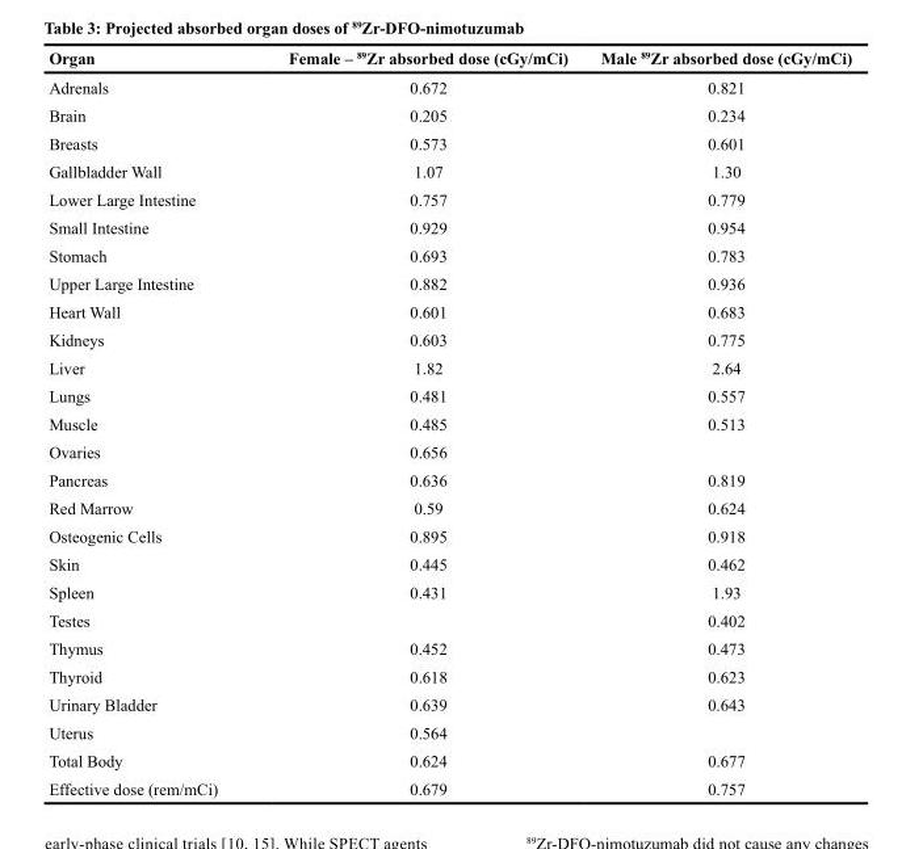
<table><thead><tr><td>Organ</td><td>Female – <sup>89</sup>Zr absorbed dose (cGy/mCi)</td><td>Male <sup>89</sup>Zr absorbed dose (cGy/mCi)</td></tr></thead><tbody><tr><td>Adrenals</td><td>0.672</td><td>0.821</td></tr><tr><td>Brain</td><td>0.205</td><td>0.234</td></tr><tr><td>Breasts</td><td>0.573</td><td>0.601</td></tr><tr><td>Gallbladder Wall</td><td>1.07</td><td>1.30</td></tr><tr><td>Lower Large Intestine</td><td>0.757</td><td>0.779</td></tr><tr><td>Small Intestine</td><td>0.929</td><td>0.954</td></tr><tr><td>Stomach</td><td>0.693</td><td>0.783</td></tr><tr><td>Upper Large Intestine</td><td>0.882</td><td>0.936</td></tr><tr><td>Heart Wall</td><td>0.601</td><td>0.683</td></tr><tr><td>Kidneys</td><td>0.603</td><td>0.775</td></tr><tr><td>Liver</td><td>1.82</td><td>2.64</td></tr><tr><td>Lungs</td><td>0.481</td><td>0.557</td></tr><tr><td>Muscle</td><td>0.485</td><td>0.513</td></tr><tr><td>Ovaries</td><td>0.656</td><td></td></tr><tr><td>Pancreas</td><td>0.636</td><td>0.819</td></tr><tr><td>Red Marrow</td><td>0.59</td><td>0.624</td></tr><tr><td>Osteogenic Cells</td><td>0.895</td><td>0.918</td></tr><tr><td>Skin</td><td>0.445</td><td>0.462</td></tr><tr><td>Spleen</td><td>0.431</td><td>1.93</td></tr><tr><td>Testes</td><td></td><td>0.402</td></tr><tr><td>Thymus</td><td>0.452</td><td>0.473</td></tr><tr><td>Thyroid</td><td>0.618</td><td>0.623</td></tr><tr><td>Urinary Bladder</td><td>0.639</td><td>0.643</td></tr><tr><td>Uterus</td><td>0.564</td><td></td></tr><tr><td>Total Body</td><td>0.624</td><td>0.677</td></tr><tr><td>Effective dose (rem/mCi)</td><td>0.679</td><td>0.757</td></tr></tbody></table>